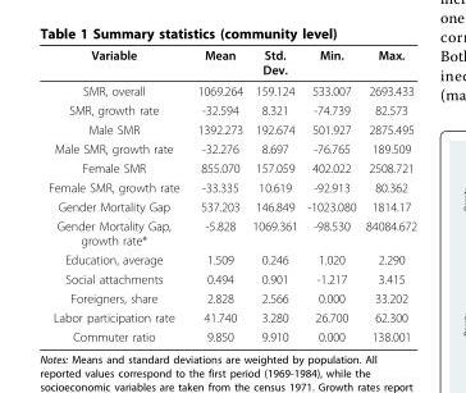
<table><thead><tr><td>Variable</td><td>Mean</td><td>Std. Dev.</td><td>Min.</td><td>Max.</td></tr></thead><tbody><tr><td>SMR, overall</td><td>1069.264</td><td>159.124</td><td>533.007</td><td>2693.433</td></tr><tr><td>SMR, growth rate</td><td>-32.594</td><td>8.321</td><td>-74.739</td><td>82.573</td></tr><tr><td>Male SMR</td><td>1392.273</td><td>192.674</td><td>501.927</td><td>2875.495</td></tr><tr><td>Male SMR, growth rate</td><td>-32.276</td><td>8.697</td><td>-76.765</td><td>189.509</td></tr><tr><td>Female SMR</td><td>855.070</td><td>157.059</td><td>402.022</td><td>2508.721</td></tr><tr><td>Female SMR, growth rate</td><td>-33.335</td><td>10.619</td><td>-92.913</td><td>80.362</td></tr><tr><td>Gender Mortality Gap</td><td>537.203</td><td>146.849</td><td>-1023.080</td><td>1814.17</td></tr><tr><td>Gender Mortality Gap, growth rate*</td><td>-5.828</td><td>1069.361</td><td>-98.530</td><td>84084.672</td></tr><tr><td>Education, average</td><td>1.509</td><td>0.246</td><td>1.020</td><td>2.290</td></tr><tr><td>Social attachments</td><td>0.494</td><td>0.901</td><td>-1.217</td><td>3.415</td></tr><tr><td>Foreigners, share</td><td>2.828</td><td>2.566</td><td>0.000</td><td>33.202</td></tr><tr><td>Labor participation rate</td><td>41.740</td><td>3.280</td><td>26.700</td><td>62.300</td></tr><tr><td>Commuter ratio</td><td>9.850</td><td>9.910</td><td>0.000</td><td>138.001</td></tr></tbody></table>